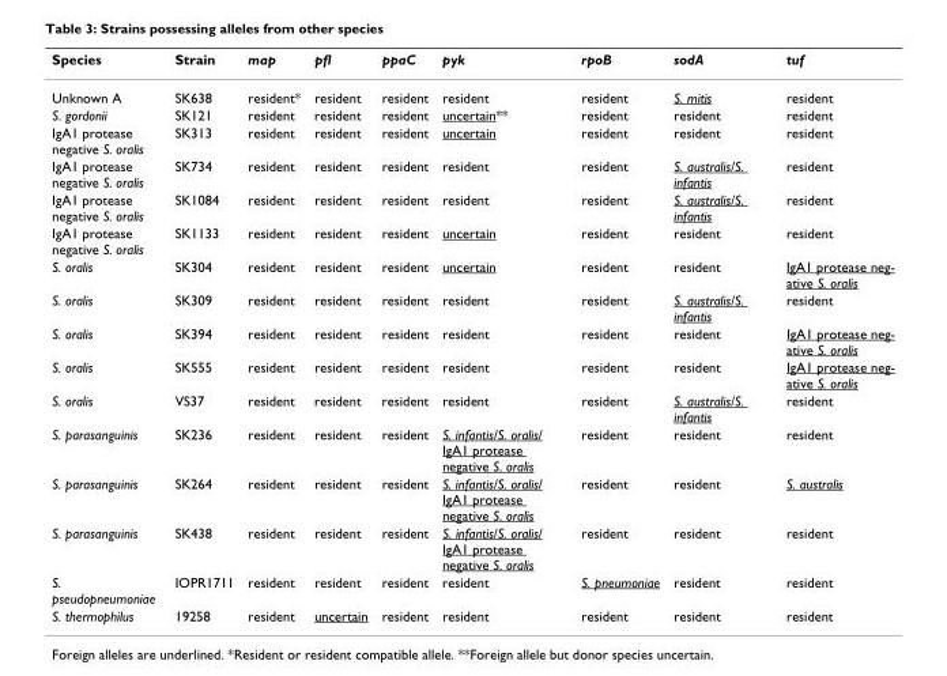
<table><thead><tr><td>Species</td><td>Strain</td><td>map</td><td>pfl</td><td>ppaC</td><td>pyk</td><td>rpoB</td><td>sodA</td><td>tuf</td></tr></thead><tbody><tr><td>Unknown A</td><td>SK638</td><td>resident*</td><td>resident</td><td>resident</td><td>resident</td><td>resident</td><td>S. mitis</td><td>resident</td></tr><tr><td>S. gordonii</td><td>SK121</td><td>resident</td><td>resident</td><td>resident</td><td>uncertain**</td><td>resident</td><td>resident</td><td>resident</td></tr><tr><td>IgA1 protease negative S. oralis</td><td>SK313</td><td>resident</td><td>resident</td><td>resident</td><td>uncertain</td><td>resident</td><td>resident</td><td>resident</td></tr><tr><td>IgA1 protease negative S. oralis</td><td>SK734</td><td>resident</td><td>resident</td><td>resident</td><td>resident</td><td>resident</td><td>S. australis/S. infantis</td><td>resident</td></tr><tr><td>IgA1 protease negative S. oralis</td><td>SK1084</td><td>resident</td><td>resident</td><td>resident</td><td>resident</td><td>resident</td><td>S. australis/S. infantis</td><td>resident</td></tr><tr><td>IgA1 protease negative S. oralis</td><td>SK1133</td><td>resident</td><td>resident</td><td>resident</td><td>uncertain</td><td>resident</td><td>resident</td><td>resident</td></tr><tr><td>S. oralis</td><td>SK304</td><td>resident</td><td>resident</td><td>resident</td><td>uncertain</td><td>resident</td><td>resident</td><td>IgA1 protease neg- ative S. oralis</td></tr><tr><td>S. oralis</td><td>SK309</td><td>resident</td><td>resident</td><td>resident</td><td>resident</td><td>resident</td><td>S. australis/S. infantis</td><td>resident</td></tr><tr><td>S. oralis</td><td>SK394</td><td>resident</td><td>resident</td><td>resident</td><td>resident</td><td>resident</td><td>resident</td><td>IgA1 protease neg- ative S. oralis</td></tr><tr><td>S. oralis</td><td>SK555</td><td>resident</td><td>resident</td><td>resident</td><td>resident</td><td>resident</td><td>resident</td><td>IgA1 protease neg- ative S. oralis</td></tr><tr><td>S. oralis</td><td>VS37</td><td>resident</td><td>resident</td><td>resident</td><td>resident</td><td>resident</td><td>S. australis/S. infantis</td><td>resident</td></tr><tr><td>S. parasanguinis</td><td>SK236</td><td>resident</td><td>resident</td><td>resident</td><td>S. infantis/S. oralis/ IgA1 protease negative S. oralis</td><td>resident</td><td>resident</td><td>resident</td></tr><tr><td>S. parasanguinis</td><td>SK264</td><td>resident</td><td>resident</td><td>resident</td><td>S. infantis/S. oralis/ IgA1 protease negative S. oralis</td><td>resident</td><td>resident</td><td>S. australis</td></tr><tr><td>S. parasanguinis</td><td>SK438</td><td>resident</td><td>resident</td><td>resident</td><td>S. infantis/S. oralis/ IgA1 protease negative S. oralis</td><td>resident</td><td>resident</td><td>resident</td></tr><tr><td>S. pseudopneumoniae</td><td>IOPR1711</td><td>resident</td><td>resident</td><td>resident</td><td>resident</td><td>S. pneumoniae</td><td>resident</td><td>resident</td></tr><tr><td>S. thermophilus</td><td>19258</td><td>resident</td><td>uncertain</td><td>resident</td><td>resident</td><td>resident</td><td>resident</td><td>resident</td></tr></tbody></table>